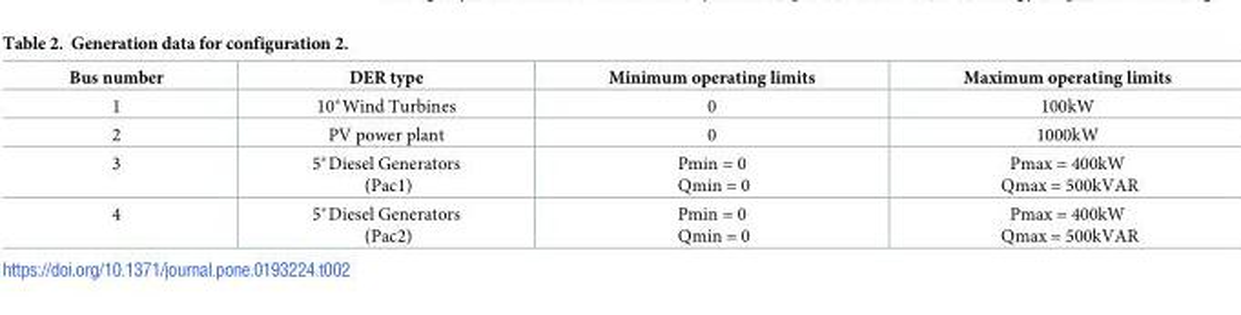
<table><thead><tr><td>Bus number</td><td>DER type</td><td>Minimum operating limits</td><td>Maximum operating limits</td></tr></thead><tbody><tr><td>1</td><td>10*Wind Turbines</td><td>0</td><td>100kW</td></tr><tr><td>2</td><td>PV power plant</td><td>0</td><td>1000kW</td></tr><tr><td>3</td><td>5�Diesel Generators (Pac1)</td><td>Pmin = 0 Qmin = 0</td><td>Pmax = 400kW Qmax = 500kVAR</td></tr><tr><td>4</td><td>5�Diesel Generators (Pac2)</td><td>Pmin = 0 Qmin = 0</td><td>Pmax = 400kW Qmax = 500kVAR</td></tr></tbody></table>